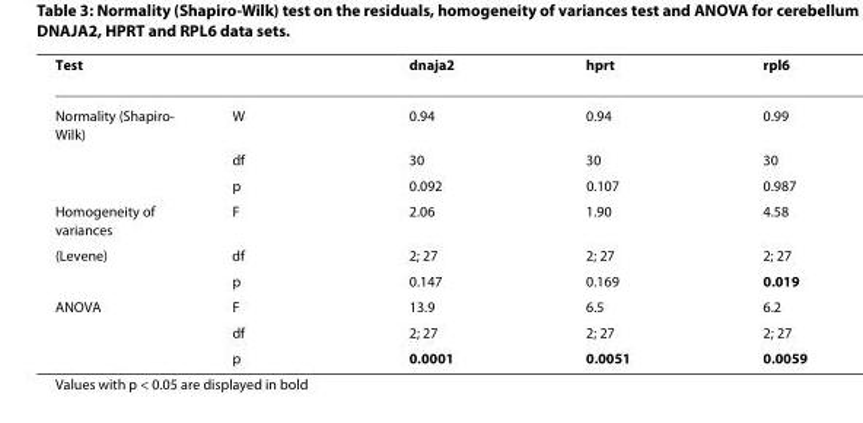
<table><thead><tr><td>Test</td><td></td><td>dnaja2</td><td>hprt</td><td>rpl6</td></tr></thead><tbody><tr><td rowspan="3">Normality (Shapiro- Wilk)</td><td>W</td><td>0.94</td><td>0.94</td><td>0.99</td></tr><tr><td>df</td><td>30</td><td>30</td><td>30</td></tr><tr><td>p</td><td>0.092</td><td>0.107</td><td>0.987</td></tr><tr><td>Homogeneity of variances</td><td>F</td><td>2.06</td><td>1.90</td><td>4.58</td></tr><tr><td rowspan="2">(Levene)</td><td>df</td><td>2; 27</td><td>2; 27</td><td>2; 27</td></tr><tr><td>p</td><td>0.147</td><td>0.169</td><td>0.019</td></tr><tr><td rowspan="3">ANOVA</td><td>F</td><td>13.9</td><td>6.5</td><td>6.2</td></tr><tr><td>df</td><td>2; 27</td><td>2; 27</td><td>2; 27</td></tr><tr><td>p</td><td>0.0001</td><td>0.0051</td><td>0.0059</td></tr></tbody></table>